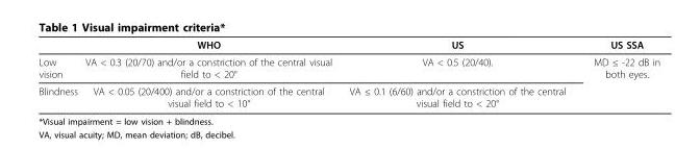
<table><thead><tr><td></td><td>WHO</td><td>US</td><td>US SSA</td></tr></thead><tbody><tr><td>Low vision</td><td>VA &lt; 0.3 (20/70) and/or a constriction of the central visual field to &lt; 20°</td><td>VA &lt; 0.5 (20/40).</td><td>MD ≤ -22 dB in both eyes.</td></tr><tr><td>Blindness</td><td>VA &lt; 0.05 (20/400) and/or a constriction of the central visual field to &lt; 10°</td><td>VA ≤ 0.1 (6/60) and/or a constriction of the central visual field to &lt; 20°</td><td></td></tr></tbody></table>